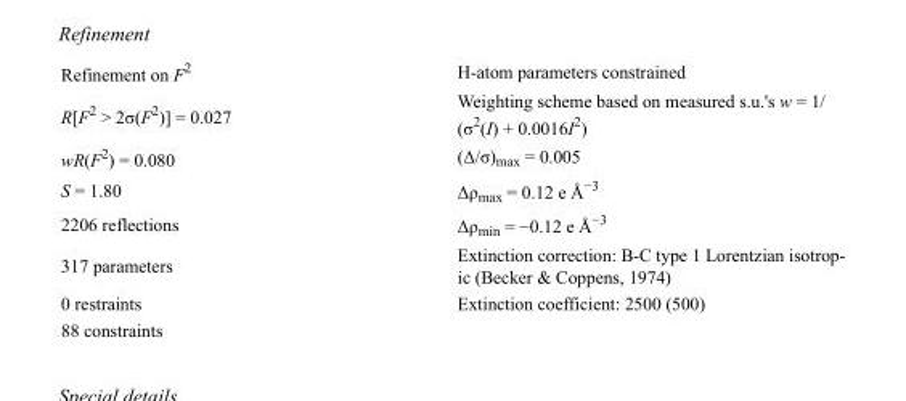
<table><tbody><tr><td>Refinement on F<sup>2</sup></td><td>H-atom parameters constrained</td></tr><tr><td>R[F<sup>2</sup> &gt; 2σ(F<sup>2</sup>)] = 0.027</td><td>Weighting scheme based on measured s.u.&#x27;s w = 1/ (σ<sup>2</sup>(I) + 0.0016I<sup>2</sup>)</td></tr><tr><td>wR(F<sup>2</sup>) = 0.080</td><td>(Δ/σ)<sub>max</sub> = 0.005</td></tr><tr><td>S = 1.80</td><td>Δρ<sub>max</sub> = 0.12 e Å<sup>−3</sup></td></tr><tr><td>2206 reflections</td><td>Δρ<sub>min</sub> = −0.12 e Å<sup>−3</sup></td></tr><tr><td>317 parameters</td><td>Extinction correction: B-C type 1 Lorentzian isotrop- ic (Becker &amp; Coppens, 1974)</td></tr><tr><td>0 restraints</td><td>Extinction coefficient: 2500 (500)</td></tr><tr><td>88 constraints</td><td></td></tr></tbody></table>